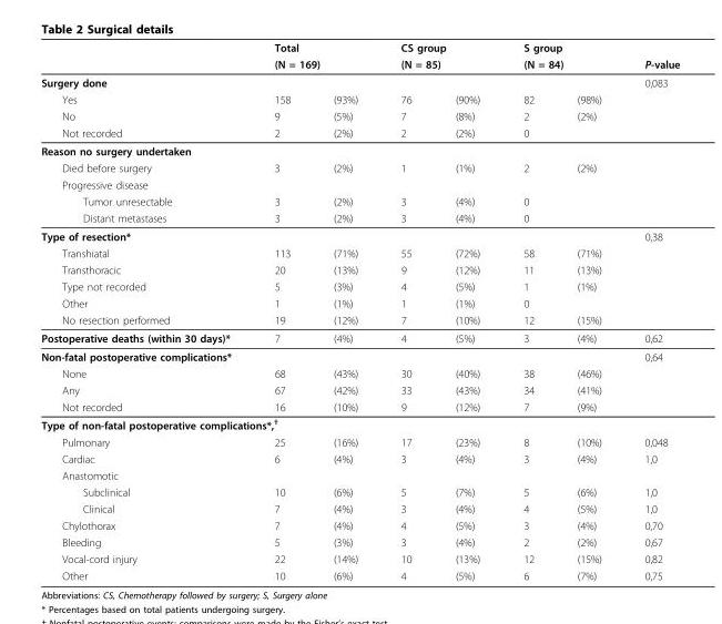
<table><thead><tr><td rowspan="3">Surgery done</td><td rowspan="2" colspan="2">Total (N = 169)</td><td rowspan="2" colspan="2">CS group (N = 85)</td><td rowspan="2" colspan="2">S group (N = 84)</td><td rowspan="3">P-value 0,083</td></tr><tr></tr><tr><td></td><td></td><td></td><td></td><td></td><td></td></tr></thead><tbody><tr><td>Yes</td><td>158</td><td>(93%)</td><td>76</td><td>(90%)</td><td>82</td><td>(98%)</td><td></td></tr><tr><td>No</td><td>9</td><td>(5%)</td><td>7</td><td>(8%)</td><td>2</td><td>(2%)</td><td></td></tr><tr><td>Not recorded</td><td>2</td><td>(2%)</td><td>2</td><td>(2%)</td><td>0</td><td></td><td></td></tr><tr><td colspan="8">Reason no surgery undertaken</td></tr><tr><td>Died before surgery</td><td>3</td><td>(2%)</td><td>1</td><td>(1%)</td><td>2</td><td>(2%)</td><td></td></tr><tr><td colspan="8">Progressive disease</td></tr><tr><td>Tumor unresectable</td><td>3</td><td>(2%)</td><td>3</td><td>(4%)</td><td>0</td><td></td><td></td></tr><tr><td>Distant metastases</td><td>3</td><td>(2%)</td><td>3</td><td>(4%)</td><td>0</td><td></td><td></td></tr><tr><td>Type of resection*</td><td></td><td></td><td></td><td></td><td></td><td></td><td>0,38</td></tr><tr><td>Transhiatal</td><td>113</td><td>(71%)</td><td>55</td><td>(72%)</td><td>58</td><td>(71%)</td><td></td></tr><tr><td>Transthoracic</td><td>20</td><td>(13%)</td><td>9</td><td>(12%)</td><td>11</td><td>(13%)</td><td></td></tr><tr><td>Type not recorded</td><td>5</td><td>(3%)</td><td>4</td><td>(5%)</td><td>1</td><td>(1%)</td><td></td></tr><tr><td>Other</td><td>1</td><td>(1%)</td><td>1</td><td>(1%)</td><td>0</td><td></td><td></td></tr><tr><td>No resection performed</td><td>19</td><td>(12%)</td><td>7</td><td>(10%)</td><td>12</td><td>(15%)</td><td></td></tr><tr><td>Postoperative deaths (within 30 days)*</td><td>7</td><td>(4%)</td><td>4</td><td>(5%)</td><td>3</td><td>(4%)</td><td>0,62</td></tr><tr><td>Non-fatal postoperative complications*</td><td></td><td></td><td></td><td></td><td></td><td></td><td>0,64</td></tr><tr><td>None</td><td>68</td><td>(43%)</td><td>30</td><td>(40%)</td><td>38</td><td>(46%)</td><td></td></tr><tr><td>Any</td><td>67</td><td>(42%)</td><td>33</td><td>(43%)</td><td>34</td><td>(41%)</td><td></td></tr><tr><td>Not recorded</td><td>16</td><td>(10%)</td><td>9</td><td>(12%)</td><td>7</td><td>(9%)</td><td></td></tr><tr><td colspan="8">Type of non-fatal postoperative complications*,<sup>†</sup></td></tr><tr><td>Pulmonary</td><td>25</td><td>(16%)</td><td>17</td><td>(23%)</td><td>8</td><td>(10%)</td><td>0,048</td></tr><tr><td>Cardiac</td><td>6</td><td>(4%)</td><td>3</td><td>(4%)</td><td>3</td><td>(4%)</td><td>1,0</td></tr><tr><td colspan="8">Anastomotic</td></tr><tr><td>Subclinical</td><td>10</td><td>(6%)</td><td>5</td><td>(7%)</td><td>5</td><td>(6%)</td><td>1,0</td></tr><tr><td>Clinical</td><td>7</td><td>(4%)</td><td>3</td><td>(4%)</td><td>4</td><td>(5%)</td><td>1,0</td></tr><tr><td>Chylothorax</td><td>7</td><td>(4%)</td><td>4</td><td>(5%)</td><td>3</td><td>(4%)</td><td>0,70</td></tr><tr><td>Bleeding</td><td>5</td><td>(3%)</td><td>3</td><td>(4%)</td><td>2</td><td>(2%)</td><td>0,67</td></tr><tr><td>Vocal-cord injury</td><td>22</td><td>(14%)</td><td>10</td><td>(13%)</td><td>12</td><td>(15%)</td><td>0,82</td></tr><tr><td>Other</td><td>10</td><td>(6%)</td><td>4</td><td>(5%)</td><td>6</td><td>(7%)</td><td>0,75</td></tr></tbody></table>